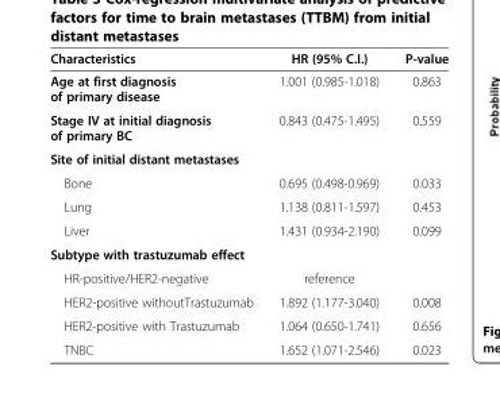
<table><thead><tr><td>Characteristics</td><td>HR (95% C.I.)</td><td>P-value</td></tr></thead><tbody><tr><td>Age at first diagnosis of primary disease</td><td>1.001 (0.985-1.018)</td><td>0.863</td></tr><tr><td>Stage IV at initial diagnosis of primary BC</td><td>0.843 (0.475-1.495)</td><td>0.559</td></tr><tr><td colspan="3">Site of initial distant metastases</td></tr><tr><td>Bone</td><td>0.695 (0.498-0.969)</td><td>0.033</td></tr><tr><td>Lung</td><td>1.138 (0.811-1.597)</td><td>0.453</td></tr><tr><td>Liver</td><td>1.431 (0.934-2.190)</td><td>0.099</td></tr><tr><td colspan="3">Subtype with trastuzumab effect</td></tr><tr><td>HR-positive/HER2-negative</td><td>reference</td><td></td></tr><tr><td>HER2-positive withoutTrastuzumab</td><td>1.892 (1.177-3.040)</td><td>0.008</td></tr><tr><td>HER2-positive with Trastuzumab</td><td>1.064 (0.650-1.741)</td><td>0.656</td></tr><tr><td>TNBC</td><td>1.652 (1.071-2.546)</td><td>0.023</td></tr></tbody></table>